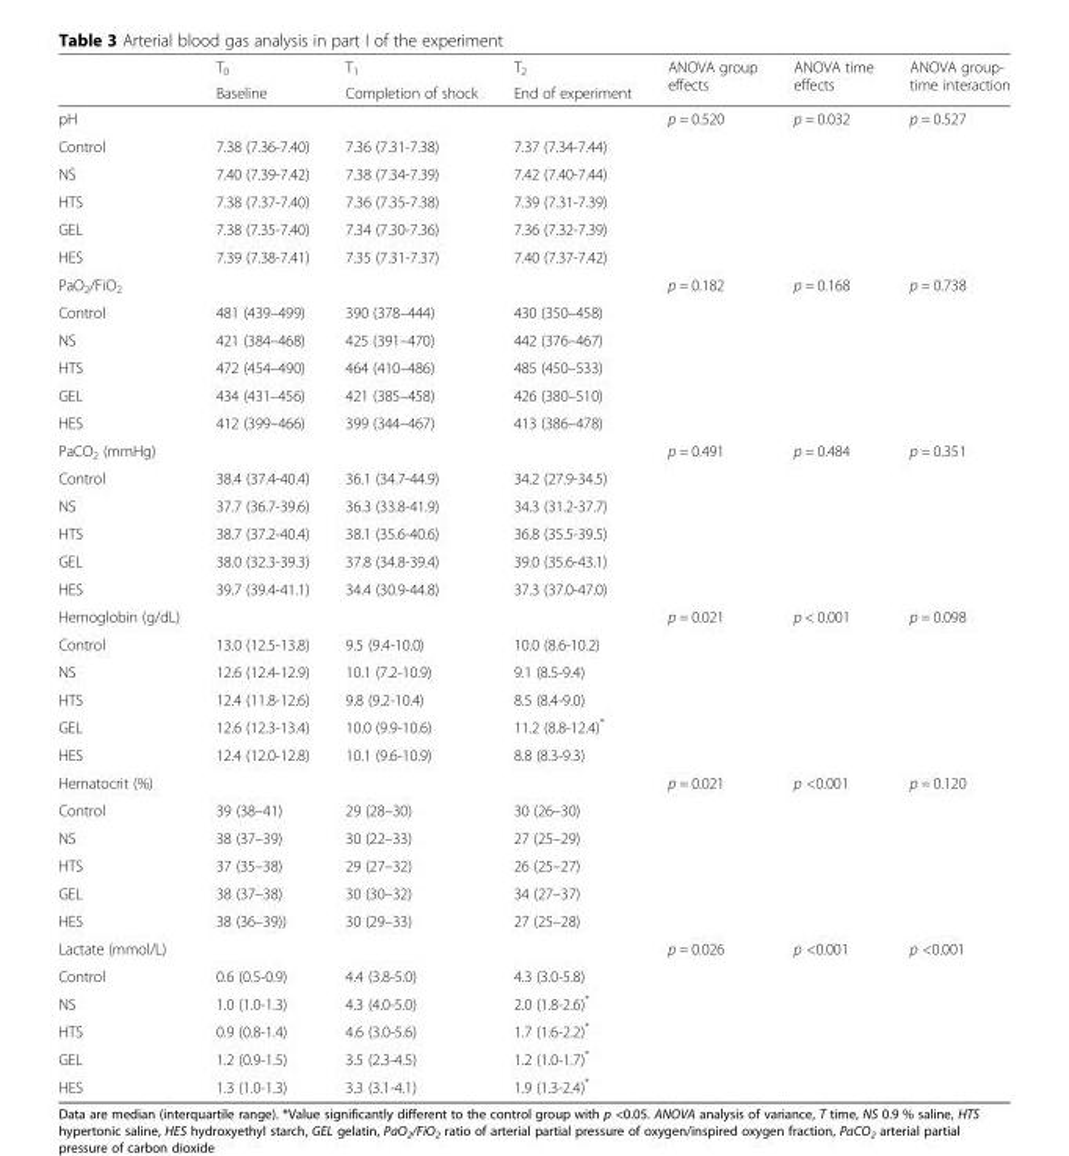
<table><thead><tr><td rowspan="2"></td><td rowspan="2">T<sub>0</sub> Baseline</td><td rowspan="2">T<sub>1</sub> Completion of shock</td><td rowspan="2">T<sub>2</sub> End of experiment</td><td rowspan="2">ANOVA group effects</td><td rowspan="2">ANOVA time effects</td><td rowspan="2">ANOVA group- time interaction</td></tr><tr></tr></thead><tbody><tr><td colspan="4">pH</td><td rowspan="6">p = 0.520</td><td rowspan="6">p = 0.032</td><td rowspan="6">p = 0.527</td></tr><tr><td>Control</td><td>7.38 (7.36-7.40)</td><td>7.36 (7.31-7.38)</td><td>7.37 (7.34-7.44)</td></tr><tr><td>NS</td><td>7.40 (7.39-7.42)</td><td>7.38 (7.34-7.39)</td><td>7.42 (7.40-7.44)</td></tr><tr><td>HTS</td><td>7.38 (7.37-7.40)</td><td>7.36 (7.35-7.38)</td><td>7.39 (7.31-7.39)</td></tr><tr><td>GEL</td><td>7.38 (7.35-7.40)</td><td>7.34 (7.30-7.36)</td><td>7.36 (7.32-7.39)</td></tr><tr><td>HES</td><td>7.39 (7.38-7.41)</td><td>7.35 (7.31-7.37)</td><td>7.40 (7.37-7.42)</td></tr><tr><td colspan="4">PaO<sub>2</sub>/FiO<sub>2</sub></td><td rowspan="6">p = 0.182</td><td rowspan="6">p = 0.168</td><td rowspan="6">p = 0.738</td></tr><tr><td>Control</td><td>481 (439–499)</td><td>390 (378–444)</td><td>430 (350–458)</td></tr><tr><td>NS</td><td>421 (384–468)</td><td>425 (391–470)</td><td>442 (376–467)</td></tr><tr><td>HTS</td><td>472 (454–490)</td><td>464 (410–486)</td><td>485 (450–533)</td></tr><tr><td>GEL</td><td>434 (431–456)</td><td>421 (385–458)</td><td>426 (380–510)</td></tr><tr><td>HES</td><td>412 (399–466)</td><td>399 (344–467)</td><td>413 (386–478)</td></tr><tr><td colspan="4">PaCO<sub>2</sub> (mmHg)</td><td rowspan="6">p = 0.491</td><td rowspan="6">p = 0.484</td><td rowspan="6">p = 0.351</td></tr><tr><td>Control</td><td>38.4 (37.4-40.4)</td><td>36.1 (34.7-44.9)</td><td>34.2 (27.9-34.5)</td></tr><tr><td>NS</td><td>37.7 (36.7-39.6)</td><td>36.3 (33.8-41.9)</td><td>34.3 (31.2-37.7)</td></tr><tr><td>HTS</td><td>38.7 (37.2-40.4)</td><td>38.1 (35.6-40.6)</td><td>36.8 (35.5-39.5)</td></tr><tr><td>GEL</td><td>38.0 (32.3-39.3)</td><td>37.8 (34.8-39.4)</td><td>39.0 (35.6-43.1)</td></tr><tr><td>HES</td><td>39.7 (39.4-41.1)</td><td>34.4 (30.9-44.8)</td><td>37.3 (37.0-47.0)</td></tr><tr><td colspan="4">Hemoglobin (g/dL)</td><td rowspan="6">p = 0.021</td><td rowspan="6">p &lt; 0.001</td><td rowspan="6">p = 0.098</td></tr><tr><td>Control</td><td>13.0 (12.5-13.8)</td><td>9.5 (9.4-10.0)</td><td>10.0 (8.6-10.2)</td></tr><tr><td>NS</td><td>12.6 (12.4-12.9)</td><td>10.1 (7.2-10.9)</td><td>9.1 (8.5-9.4)</td></tr><tr><td>HTS</td><td>12.4 (11.8-12.6)</td><td>9.8 (9.2-10.4)</td><td>8.5 (8.4-9.0)</td></tr><tr><td>GEL</td><td>12.6 (12.3-13.4)</td><td>10.0 (9.9-10.6)</td><td>11.2 (8.8-12.4)*</td></tr><tr><td>HES</td><td>12.4 (12.0-12.8)</td><td>10.1 (9.6-10.9)</td><td>8.8 (8.3-9.3)</td></tr><tr><td colspan="4">Hematocrit (%)</td><td rowspan="6">p = 0.021</td><td rowspan="6">p &lt;0.001</td><td rowspan="6">p = 0.120</td></tr><tr><td>Control</td><td>39 (38–41)</td><td>29 (28–30)</td><td>30 (26–30)</td></tr><tr><td>NS</td><td>38 (37–39)</td><td>30 (22–33)</td><td>27 (25–29)</td></tr><tr><td>HTS</td><td>37 (35–38)</td><td>29 (27–32)</td><td>26 (25–27)</td></tr><tr><td>GEL</td><td>38 (37–38)</td><td>30 (30–32)</td><td>34 (27–37)</td></tr><tr><td>HES</td><td>38 (36–39))</td><td>30 (29–33)</td><td>27 (25–28)</td></tr><tr><td colspan="4">Lactate (mmol/L)</td><td rowspan="6">p = 0.026</td><td rowspan="6">p &lt;0.001</td><td rowspan="6">p &lt;0.001</td></tr><tr><td>Control</td><td>0.6 (0.5-0.9)</td><td>4.4 (3.8-5.0)</td><td>4.3 (3.0-5.8)</td></tr><tr><td>NS</td><td>1.0 (1.0-1.3)</td><td>4.3 (4.0-5.0)</td><td>2.0 (1.8-2.6)*</td></tr><tr><td>HTS</td><td>0.9 (0.8-1.4)</td><td>4.6 (3.0-5.6)</td><td>1.7 (1.6-2.2)*</td></tr><tr><td>GEL</td><td>1.2 (0.9-1.5)</td><td>3.5 (2.3-4.5)</td><td>1.2 (1.0-1.7)*</td></tr><tr><td>HES</td><td>1.3 (1.0-1.3)</td><td>3.3 (3.1-4.1)</td><td>1.9 (1.3-2.4)*</td></tr></tbody></table>